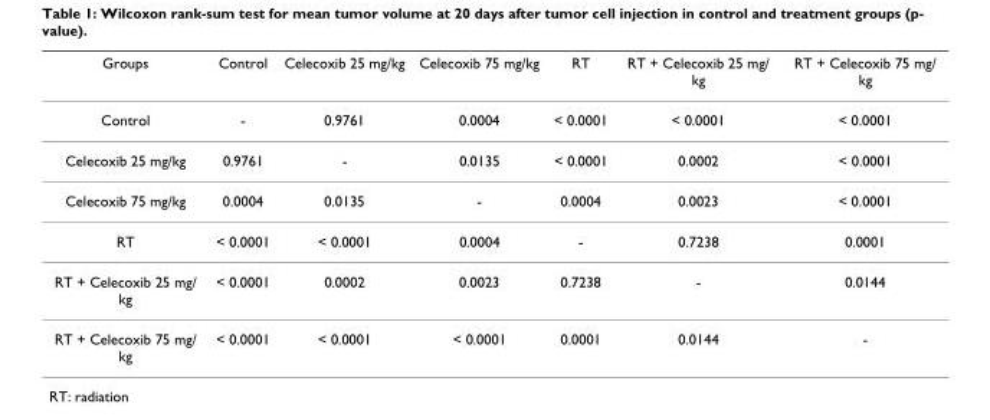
<table><thead><tr><td>Groups</td><td>Control</td><td>Celecoxib 25 mg/kg</td><td>Celecoxib 75 mg/kg</td><td>RT</td><td>RT + Celecoxib 25 mg/ kg</td><td>RT + Celecoxib 75 mg/ kg</td></tr></thead><tbody><tr><td>Control</td><td>-</td><td>0.9761</td><td>0.0004</td><td>&lt; 0.0001</td><td>&lt; 0.0001</td><td>&lt; 0.0001</td></tr><tr><td>Celecoxib 25 mg/kg</td><td>0.9761</td><td>-</td><td>0.0135</td><td>&lt; 0.0001</td><td>0.0002</td><td>&lt; 0.0001</td></tr><tr><td>Celecoxib 75 mg/kg</td><td>0.0004</td><td>0.0135</td><td>-</td><td>0.0004</td><td>0.0023</td><td>&lt; 0.0001</td></tr><tr><td>RT</td><td>&lt; 0.0001</td><td>&lt; 0.0001</td><td>0.0004</td><td>-</td><td>0.7238</td><td>0.0001</td></tr><tr><td>RT + Celecoxib 25 mg/ kg</td><td>&lt; 0.0001</td><td>0.0002</td><td>0.0023</td><td>0.7238</td><td>-</td><td>0.0144</td></tr><tr><td>RT + Celecoxib 75 mg/ kg</td><td>&lt; 0.0001</td><td>&lt; 0.0001</td><td>&lt; 0.0001</td><td>0.0001</td><td>0.0144</td><td>-</td></tr></tbody></table>